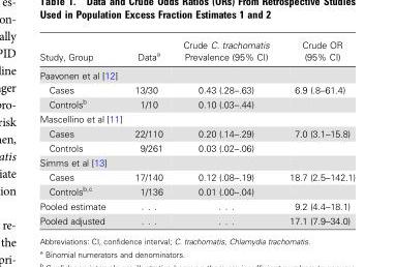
<table><thead><tr><td>Study, Group</td><td>Data<sup>a</sup></td><td>Crude C. trachomatis Prevalence (95% CI)</td><td>Crude OR (95% CI)</td></tr></thead><tbody><tr><td colspan="4">Paavonen et al [12]</td></tr><tr><td>Cases</td><td>13/30</td><td>0.43 (.28–.63)</td><td>6.9 (.8–61.4)</td></tr><tr><td>Controls<sup>b</sup></td><td>1/10</td><td>0.10 (.03–.44)</td><td></td></tr><tr><td colspan="4">Mascellino et al [11]</td></tr><tr><td>Cases</td><td>22/110</td><td>0.20 (.14–.29)</td><td>7.0 (3.1–15.8)</td></tr><tr><td>Controls</td><td>9/261</td><td>0.03 (.02–.06)</td><td></td></tr><tr><td colspan="4">Simms et al [13]</td></tr><tr><td>Cases</td><td>17/140</td><td>0.12 (.08–.19)</td><td>18.7 (2.5–142.1)</td></tr><tr><td>Controls<sup>b,c</sup></td><td>1/136</td><td>0.01 (.00–.04)</td><td></td></tr><tr><td>Pooled estimate</td><td>. . .</td><td>. . .</td><td>9.2 (4.4–18.1)</td></tr><tr><td>Pooled adjusted</td><td>. . .</td><td>. . .</td><td>17.1 (7.9–34.0)</td></tr></tbody></table>